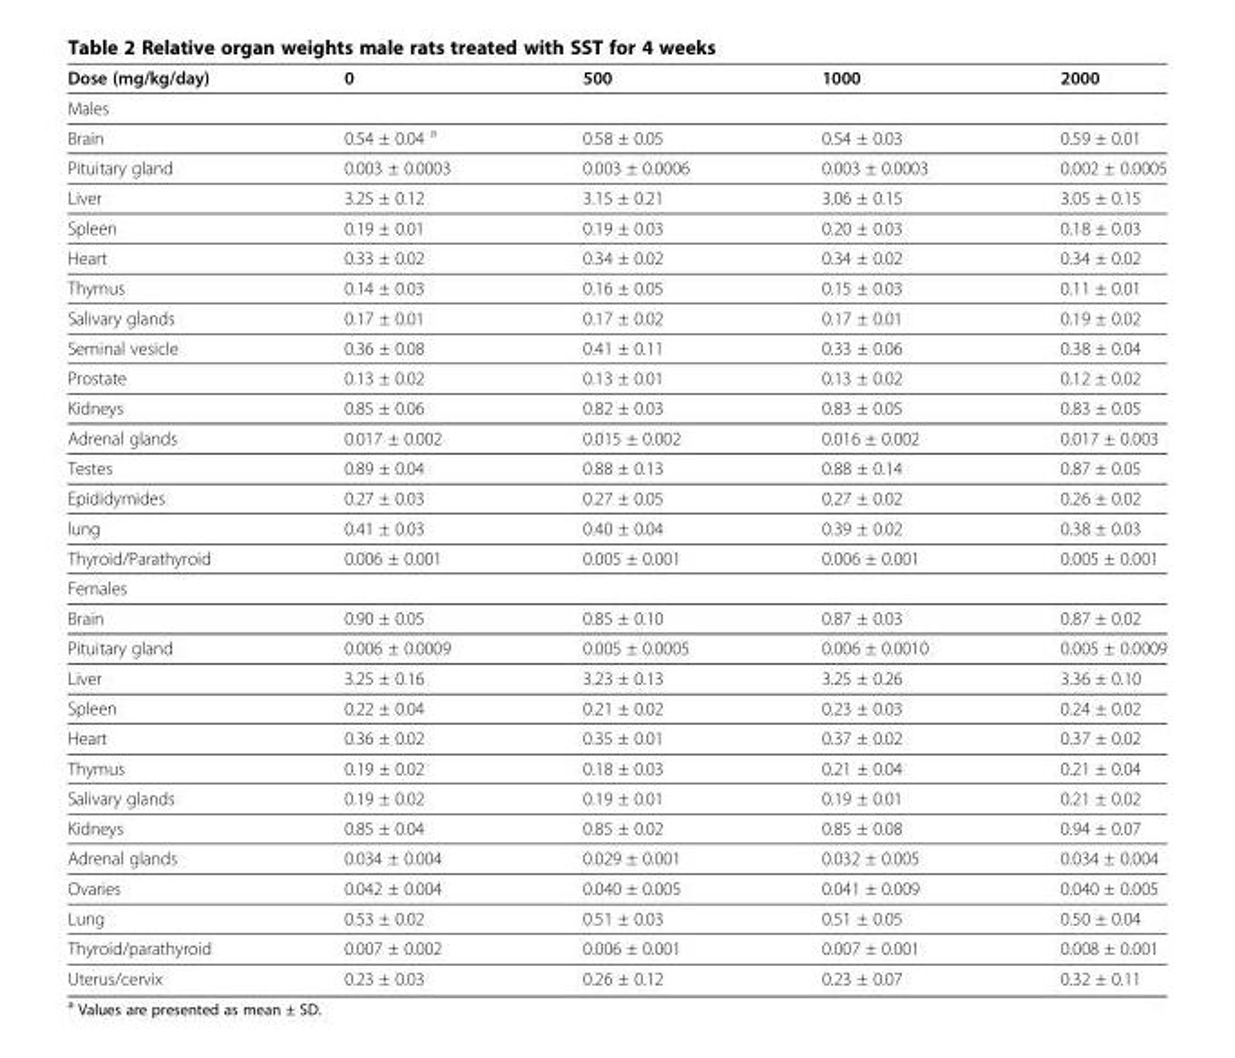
<table><thead><tr><td>Dose (mg/kg/day)</td><td>0</td><td>500</td><td>1000</td><td>2000</td></tr></thead><tbody><tr><td colspan="5">Males</td></tr><tr><td>Brain</td><td>0.54 ± 0.04 <sup>a</sup></td><td>0.58 ± 0.05</td><td>0.54 ± 0.03</td><td>0.59 ± 0.01</td></tr><tr><td>Pituitary gland</td><td>0.003 ± 0.0003</td><td>0.003 ± 0.0006</td><td>0.003 ± 0.0003</td><td>0.002 ± 0.0005</td></tr><tr><td>Liver</td><td>3.25 ± 0.12</td><td>3.15 ± 0.21</td><td>3.06 ± 0.15</td><td>3.05 ± 0.15</td></tr><tr><td>Spleen</td><td>0.19 ± 0.01</td><td>0.19 ± 0.03</td><td>0.20 ± 0.03</td><td>0.18 ± 0.03</td></tr><tr><td>Heart</td><td>0.33 ± 0.02</td><td>0.34 ± 0.02</td><td>0.34 ± 0.02</td><td>0.34 ± 0.02</td></tr><tr><td>Thymus</td><td>0.14 ± 0.03</td><td>0.16 ± 0.05</td><td>0.15 ± 0.03</td><td>0.11 ± 0.01</td></tr><tr><td>Salivary glands</td><td>0.17 ± 0.01</td><td>0.17 ± 0.02</td><td>0.17 ± 0.01</td><td>0.19 ± 0.02</td></tr><tr><td>Seminal vesicle</td><td>0.36 ± 0.08</td><td>0.41 ± 0.11</td><td>0.33 ± 0.06</td><td>0.38 ± 0.04</td></tr><tr><td>Prostate</td><td>0.13 ± 0.02</td><td>0.13 ± 0.01</td><td>0.13 ± 0.02</td><td>0.12 ± 0.02</td></tr><tr><td>Kidneys</td><td>0.85 ± 0.06</td><td>0.82 ± 0.03</td><td>0.83 ± 0.05</td><td>0.83 ± 0.05</td></tr><tr><td>Adrenal glands</td><td>0.017 ± 0.002</td><td>0.015 ± 0.002</td><td>0.016 ± 0.002</td><td>0.017 ± 0.003</td></tr><tr><td>Testes</td><td>0.89 ± 0.04</td><td>0.88 ± 0.13</td><td>0.88 ± 0.14</td><td>0.87 ± 0.05</td></tr><tr><td>Epididymides</td><td>0.27 ± 0.03</td><td>0.27 ± 0.05</td><td>0.27 ± 0.02</td><td>0.26 ± 0.02</td></tr><tr><td>lung</td><td>0.41 ± 0.03</td><td>0.40 ± 0.04</td><td>0.39 ± 0.02</td><td>0.38 ± 0.03</td></tr><tr><td>Thyroid/Parathyroid</td><td>0.006 ± 0.001</td><td>0.005 ± 0.001</td><td>0.006 ± 0.001</td><td>0.005 ± 0.001</td></tr><tr><td colspan="5">Females</td></tr><tr><td>Brain</td><td>0.90 ± 0.05</td><td>0.85 ± 0.10</td><td>0.87 ± 0.03</td><td>0.87 ± 0.02</td></tr><tr><td>Pituitary gland</td><td>0.006 ± 0.0009</td><td>0.005 ± 0.0005</td><td>0.006 ± 0.0010</td><td>0.005 ± 0.0009</td></tr><tr><td>Liver</td><td>3.25 ± 0.16</td><td>3.23 ± 0.13</td><td>3.25 ± 0.26</td><td>3.36 ± 0.10</td></tr><tr><td>Spleen</td><td>0.22 ± 0.04</td><td>0.21 ± 0.02</td><td>0.23 ± 0.03</td><td>0.24 ± 0.02</td></tr><tr><td>Heart</td><td>0.36 ± 0.02</td><td>0.35 ± 0.01</td><td>0.37 ± 0.02</td><td>0.37 ± 0.02</td></tr><tr><td>Thymus</td><td>0.19 ± 0.02</td><td>0.18 ± 0.03</td><td>0.21 ± 0.04</td><td>0.21 ± 0.04</td></tr><tr><td>Salivary glands</td><td>0.19 ± 0.02</td><td>0.19 ± 0.01</td><td>0.19 ± 0.01</td><td>0.21 ± 0.02</td></tr><tr><td>Kidneys</td><td>0.85 ± 0.04</td><td>0.85 ± 0.02</td><td>0.85 ± 0.08</td><td>0.94 ± 0.07</td></tr><tr><td>Adrenal glands</td><td>0.034 ± 0.004</td><td>0.029 ± 0.001</td><td>0.032 ± 0.005</td><td>0.034 ± 0.004</td></tr><tr><td>Ovaries</td><td>0.042 ± 0.004</td><td>0.040 ± 0.005</td><td>0.041 ± 0.009</td><td>0.040 ± 0.005</td></tr><tr><td>Lung</td><td>0.53 ± 0.02</td><td>0.51 ± 0.03</td><td>0.51 ± 0.05</td><td>0.50 ± 0.04</td></tr><tr><td>Thyroid/parathyroid</td><td>0.007 ± 0.002</td><td>0.006 ± 0.001</td><td>0.007 ± 0.001</td><td>0.008 ± 0.001</td></tr><tr><td>Uterus/cervix</td><td>0.23 ± 0.03</td><td>0.26 ± 0.12</td><td>0.23 ± 0.07</td><td>0.32 ± 0.11</td></tr></tbody></table>